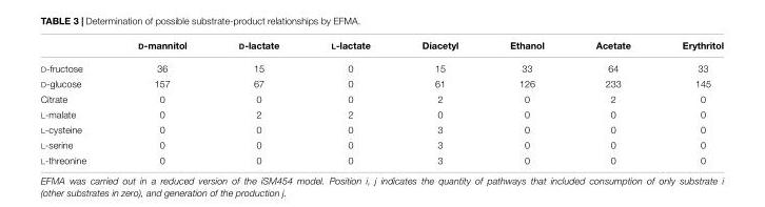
<table><thead><tr><td></td><td>D-mannitol</td><td>D-lactate</td><td>L-lactate</td><td>Diacetyl</td><td>Ethanol</td><td>Acetate</td><td>Erythritol</td></tr></thead><tbody><tr><td>D-fructose</td><td>36</td><td>15</td><td>0</td><td>15</td><td>33</td><td>64</td><td>33</td></tr><tr><td>D-glucose</td><td>157</td><td>67</td><td>0</td><td>61</td><td>126</td><td>233</td><td>145</td></tr><tr><td>Citrate</td><td>0</td><td>0</td><td>0</td><td>2</td><td>0</td><td>2</td><td>0</td></tr><tr><td>L-malate</td><td>0</td><td>2</td><td>2</td><td>0</td><td>0</td><td>0</td><td>0</td></tr><tr><td>L-cysteine</td><td>0</td><td>0</td><td>0</td><td>3</td><td>0</td><td>0</td><td>0</td></tr><tr><td>L-serine</td><td>0</td><td>0</td><td>0</td><td>3</td><td>0</td><td>0</td><td>0</td></tr><tr><td>L-threonine</td><td>0</td><td>0</td><td>0</td><td>3</td><td>0</td><td>0</td><td>0</td></tr></tbody></table>